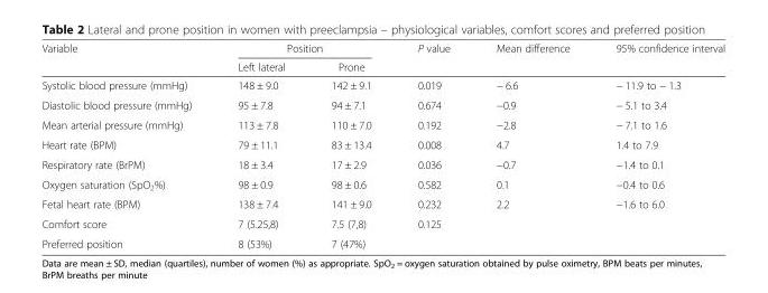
<table><thead><tr><td rowspan="2">Variable</td><td colspan="2">Position</td><td rowspan="2">P value</td><td rowspan="2">Mean difference</td><td rowspan="2">95% confidence interval</td></tr><tr><td>Left lateral</td><td>Prone</td></tr></thead><tbody><tr><td>Systolic blood pressure (mmHg)</td><td>148 ± 9.0</td><td>142 ± 9.1</td><td>0.019</td><td>− 6.6</td><td>− 11.9 to − 1.3</td></tr><tr><td>Diastolic blood pressure (mmHg)</td><td>95 ± 7.8</td><td>94 ± 7.1</td><td>0.674</td><td>−0.9</td><td>− 5.1 to 3.4</td></tr><tr><td>Mean arterial pressure (mmHg)</td><td>113 ± 7.8</td><td>110 ± 7.0</td><td>0.192</td><td>−2.8</td><td>− 7.1 to 1.6</td></tr><tr><td>Heart rate (BPM)</td><td>79 ± 11.1</td><td>83 ± 13.4</td><td>0.008</td><td>4.7</td><td>1.4 to 7.9</td></tr><tr><td>Respiratory rate (BrPM)</td><td>18 ± 3.4</td><td>17 ± 2.9</td><td>0.036</td><td>−0.7</td><td>−1.4 to 0.1</td></tr><tr><td>Oxygen saturation (SpO<sub>2</sub>%)</td><td>98 ± 0.9</td><td>98 ± 0.6</td><td>0.582</td><td>0.1</td><td>−0.4 to 0.6</td></tr><tr><td>Fetal heart rate (BPM)</td><td>138 ± 7.4</td><td>141 ± 9.0</td><td>0.232</td><td>2.2</td><td>−1.6 to 6.0</td></tr><tr><td>Comfort score</td><td>7 (5.25,8)</td><td>7.5 (7,8)</td><td>0.125</td><td></td><td></td></tr><tr><td>Preferred position</td><td>8 (53%)</td><td>7 (47%)</td><td></td><td></td><td></td></tr></tbody></table>